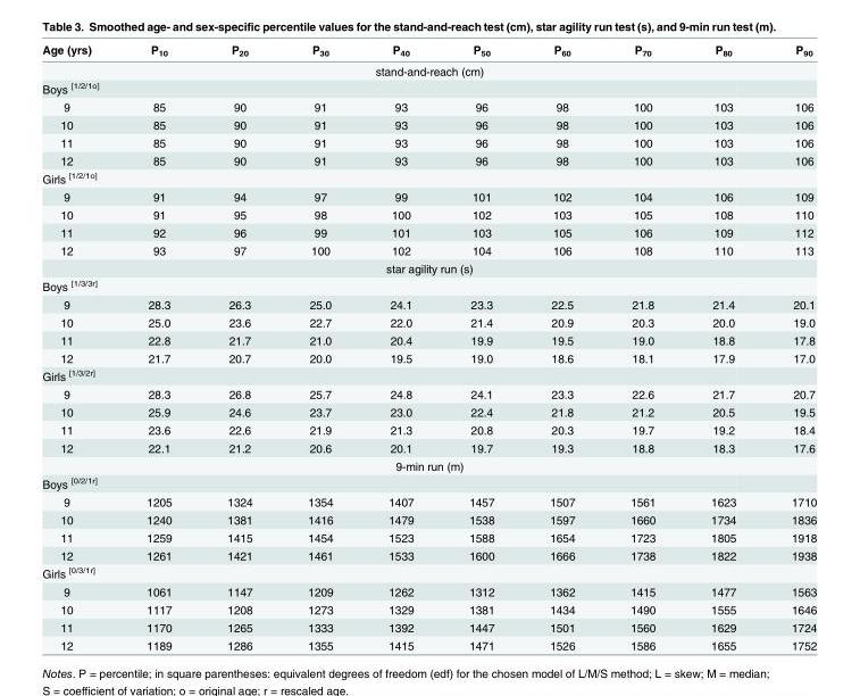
<table><thead><tr><td>Age (yrs)</td><td>P<sub>10</sub></td><td>P<sub>20</sub></td><td>P<sub>30</sub></td><td>P<sub>40</sub></td><td>P<sub>50</sub></td><td>P<sub>60</sub></td><td>P<sub>70</sub></td><td>P<sub>80</sub></td><td>P<sub>90</sub></td></tr></thead><tbody><tr><td colspan="10">stand-and-reach (cm)</td></tr><tr><td colspan="10">Boys <sup>[1/2/1o]</sup></td></tr><tr><td>9</td><td>85</td><td>90</td><td>91</td><td>93</td><td>96</td><td>98</td><td>100</td><td>103</td><td>106</td></tr><tr><td>10</td><td>85</td><td>90</td><td>91</td><td>93</td><td>96</td><td>98</td><td>100</td><td>103</td><td>106</td></tr><tr><td>11</td><td>85</td><td>90</td><td>91</td><td>93</td><td>96</td><td>98</td><td>100</td><td>103</td><td>106</td></tr><tr><td>12</td><td>85</td><td>90</td><td>91</td><td>93</td><td>96</td><td>98</td><td>100</td><td>103</td><td>106</td></tr><tr><td colspan="10">Girls <sup>[1/2/1o]</sup></td></tr><tr><td>9</td><td>91</td><td>94</td><td>97</td><td>99</td><td>101</td><td>102</td><td>104</td><td>106</td><td>109</td></tr><tr><td>10</td><td>91</td><td>95</td><td>98</td><td>100</td><td>102</td><td>103</td><td>105</td><td>108</td><td>110</td></tr><tr><td>11</td><td>92</td><td>96</td><td>99</td><td>101</td><td>103</td><td>105</td><td>106</td><td>109</td><td>112</td></tr><tr><td>12</td><td>93</td><td>97</td><td>100</td><td>102</td><td>104</td><td>106</td><td>108</td><td>110</td><td>113</td></tr><tr><td colspan="10">star agility run (s)</td></tr><tr><td colspan="10">Boys <sup>[1/3/3r]</sup></td></tr><tr><td>9</td><td>28.3</td><td>26.3</td><td>25.0</td><td>24.1</td><td>23.3</td><td>22.5</td><td>21.8</td><td>21.4</td><td>20.1</td></tr><tr><td>10</td><td>25.0</td><td>23.6</td><td>22.7</td><td>22.0</td><td>21.4</td><td>20.9</td><td>20.3</td><td>20.0</td><td>19.0</td></tr><tr><td>11</td><td>22.8</td><td>21.7</td><td>21.0</td><td>20.4</td><td>19.9</td><td>19.5</td><td>19.0</td><td>18.8</td><td>17.8</td></tr><tr><td>12</td><td>21.7</td><td>20.7</td><td>20.0</td><td>19.5</td><td>19.0</td><td>18.6</td><td>18.1</td><td>17.9</td><td>17.0</td></tr><tr><td colspan="10">Girls <sup>[1/3/2r]</sup></td></tr><tr><td>9</td><td>28.3</td><td>26.8</td><td>25.7</td><td>24.8</td><td>24.1</td><td>23.3</td><td>22.6</td><td>21.7</td><td>20.7</td></tr><tr><td>10</td><td>25.9</td><td>24.6</td><td>23.7</td><td>23.0</td><td>22.4</td><td>21.8</td><td>21.2</td><td>20.5</td><td>19.5</td></tr><tr><td>11</td><td>23.6</td><td>22.6</td><td>21.9</td><td>21.3</td><td>20.8</td><td>20.3</td><td>19.7</td><td>19.2</td><td>18.4</td></tr><tr><td>12</td><td>22.1</td><td>21.2</td><td>20.6</td><td>20.1</td><td>19.7</td><td>19.3</td><td>18.8</td><td>18.3</td><td>17.6</td></tr><tr><td colspan="10">9-min run (m)</td></tr><tr><td colspan="10">Boys <sup>[0/2/1r]</sup></td></tr><tr><td>9</td><td>1205</td><td>1324</td><td>1354</td><td>1407</td><td>1457</td><td>1507</td><td>1561</td><td>1623</td><td>1710</td></tr><tr><td>10</td><td>1240</td><td>1381</td><td>1416</td><td>1479</td><td>1538</td><td>1597</td><td>1660</td><td>1734</td><td>1836</td></tr><tr><td>11</td><td>1259</td><td>1415</td><td>1454</td><td>1523</td><td>1588</td><td>1654</td><td>1723</td><td>1805</td><td>1918</td></tr><tr><td>12</td><td>1261</td><td>1421</td><td>1461</td><td>1533</td><td>1600</td><td>1666</td><td>1738</td><td>1822</td><td>1938</td></tr><tr><td colspan="10">Girls <sup>[0/3/1r]</sup></td></tr><tr><td>9</td><td>1061</td><td>1147</td><td>1209</td><td>1262</td><td>1312</td><td>1362</td><td>1415</td><td>1477</td><td>1563</td></tr><tr><td>10</td><td>1117</td><td>1208</td><td>1273</td><td>1329</td><td>1381</td><td>1434</td><td>1490</td><td>1555</td><td>1646</td></tr><tr><td>11</td><td>1170</td><td>1265</td><td>1333</td><td>1392</td><td>1447</td><td>1501</td><td>1560</td><td>1629</td><td>1724</td></tr><tr><td>12</td><td>1189</td><td>1286</td><td>1355</td><td>1415</td><td>1471</td><td>1526</td><td>1586</td><td>1655</td><td>1752</td></tr></tbody></table>